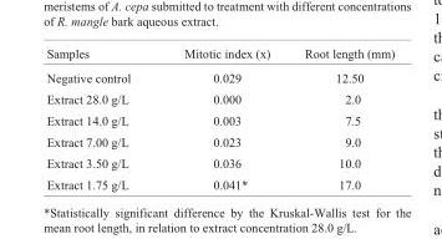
<table><thead><tr><td>Samples</td><td>Mitotic index (x)</td><td>Root length (mm)</td></tr></thead><tbody><tr><td>Negative control</td><td>0.029</td><td>12.50</td></tr><tr><td>Extract 28.0 g/L</td><td>0.000</td><td>2.0</td></tr><tr><td>Extract 14.0 g/L</td><td>0.003</td><td>7.5</td></tr><tr><td>Extract 7.00 g/L</td><td>0.023</td><td>9.0</td></tr><tr><td>Extract 3.50 g/L</td><td>0.036</td><td>10.0</td></tr><tr><td>Extract 1.75 g/L</td><td>0.041*</td><td>17.0</td></tr></tbody></table>